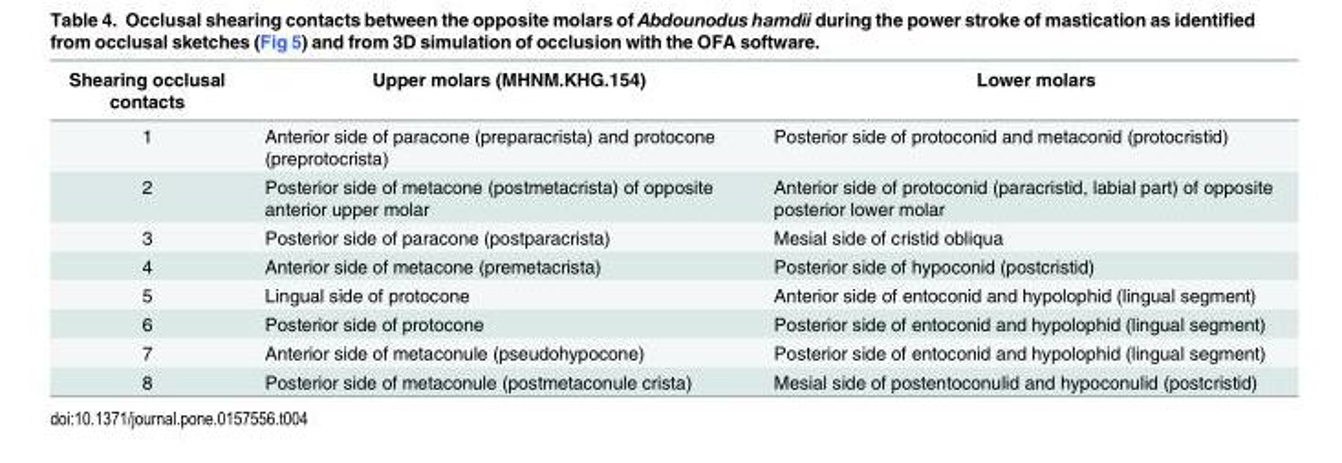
<table><thead><tr><td>Shearing occlusal contacts</td><td>Upper molars (MHNM.KHG.154)</td><td>Lower molars</td></tr></thead><tbody><tr><td>1</td><td>Anterior side of paracone (preparacrista) and protocone (preprotocrista)</td><td>Posterior side of protoconid and metaconid (protocristid)</td></tr><tr><td>2</td><td>Posterior side of metacone (postmetacrista) of opposite anterior upper molar</td><td>Anterior side of protoconid (paracristid, labial part) of opposite posterior lower molar</td></tr><tr><td>3</td><td>Posterior side of paracone (postparacrista)</td><td>Mesial side of cristid obliqua</td></tr><tr><td>4</td><td>Anterior side of metacone (premetacrista)</td><td>Posterior side of hypoconid (postcristid)</td></tr><tr><td>5</td><td>Lingual side of protocone</td><td>Anterior side of entoconid and hypolophid (lingual segment)</td></tr><tr><td>6</td><td>Posterior side of protocone</td><td>Posterior side of entoconid and hypolophid (lingual segment)</td></tr><tr><td>7</td><td>Anterior side of metaconule (pseudohypocone)</td><td>Posterior side of entoconid and hypolophid (lingual segment)</td></tr><tr><td>8</td><td>Posterior side of metaconule (postmetaconule crista)</td><td>Mesial side of postentoconulid and hypoconulid (postcristid)</td></tr></tbody></table>